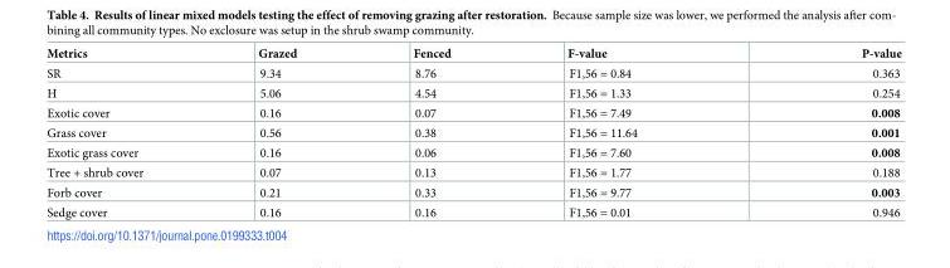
<table><thead><tr><td>Metrics</td><td>Grazed</td><td>Fenced</td><td>F-value</td><td>P-value</td></tr></thead><tbody><tr><td>SR</td><td>9.34</td><td>8.76</td><td>F1,56 = 0.84</td><td>0.363</td></tr><tr><td>H</td><td>5.06</td><td>4.54</td><td>F1,56 = 1.33</td><td>0.254</td></tr><tr><td>Exotic cover</td><td>0.16</td><td>0.07</td><td>F1,56 = 7.49</td><td>0.008</td></tr><tr><td>Grass cover</td><td>0.56</td><td>0.38</td><td>F1,56 = 11.64</td><td>0.001</td></tr><tr><td>Exotic grass cover</td><td>0.16</td><td>0.06</td><td>F1,56 = 7.60</td><td>0.008</td></tr><tr><td>Tree + shrub cover</td><td>0.07</td><td>0.13</td><td>F1,56 = 1.77</td><td>0.188</td></tr><tr><td>Forb cover</td><td>0.21</td><td>0.33</td><td>F1,56 = 9.77</td><td>0.003</td></tr><tr><td>Sedge cover</td><td>0.16</td><td>0.16</td><td>F1,56 = 0.01</td><td>0.946</td></tr></tbody></table>